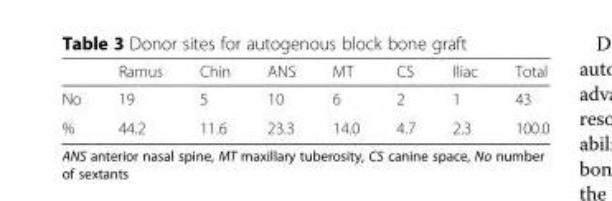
<table><thead><tr><td></td><td>Ramus</td><td>Chin</td><td>ANS</td><td>MT</td><td>CS</td><td>Iliac</td><td>Total</td></tr></thead><tbody><tr><td>No</td><td>19</td><td>5</td><td>10</td><td>6</td><td>2</td><td>1</td><td>43</td></tr><tr><td>%</td><td>44.2</td><td>11.6</td><td>23.3</td><td>14.0</td><td>4.7</td><td>2.3</td><td>100.0</td></tr></tbody></table>